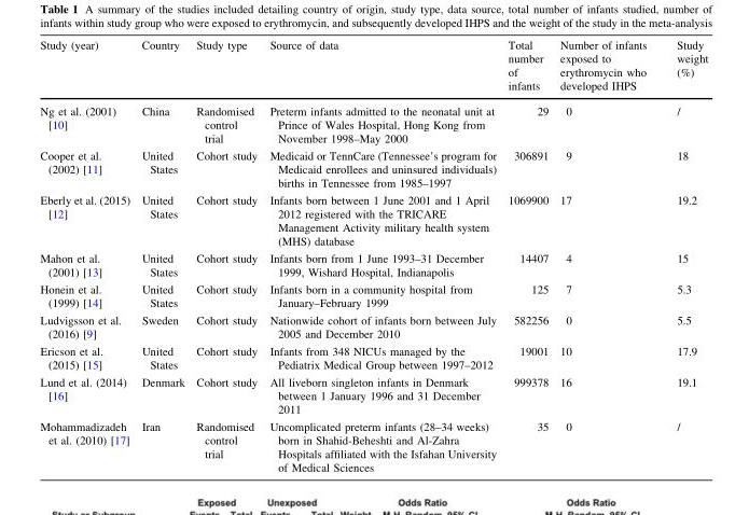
<table><thead><tr><td>Study (year)</td><td>Country</td><td>Study type</td><td>Source of data</td><td>Total number of infants</td><td>Number of infants exposed to erythromycin who developed IHPS</td><td>Study weight (%)</td></tr></thead><tbody><tr><td>Ng et al. (2001) [10]</td><td>China</td><td>Randomised control trial</td><td>Preterm infants admitted to the neonatal unit at Prince of Wales Hospital, Hong Kong from November 1998–May 2000</td><td>29</td><td>0</td><td>/</td></tr><tr><td>Cooper et al. (2002) [11]</td><td>United States</td><td>Cohort study</td><td>Medicaid or TennCare (Tennessee’s program for Medicaid enrollees and uninsured individuals) births in Tennessee from 1985–1997</td><td>306891</td><td>9</td><td>18</td></tr><tr><td>Eberly et al. (2015) [12]</td><td>United States</td><td>Cohort study</td><td>Infants born between 1 June 2001 and 1 April 2012 registered with the TRICARE Management Activity military health system (MHS) database</td><td>1069900</td><td>17</td><td>19.2</td></tr><tr><td>Mahon et al. (2001) [13]</td><td>United States</td><td>Cohort study</td><td>Infants born from 1 June 1993–31 December 1999, Wishard Hospital, Indianapolis</td><td>14407</td><td>4</td><td>15</td></tr><tr><td>Honein et al. (1999) [14]</td><td>United States</td><td>Cohort study</td><td>Infants born in a community hospital from January–February 1999</td><td>125</td><td>7</td><td>5.3</td></tr><tr><td>Ludvigsson et al. (2016) [9]</td><td>Sweden</td><td>Cohort study</td><td>Nationwide cohort of infants born between July 2005 and December 2010</td><td>582256</td><td>0</td><td>5.5</td></tr><tr><td>Ericson et al. (2015) [15]</td><td>United States</td><td>Cohort study</td><td>Infants from 348 NICUs managed by the Pediatrix Medical Group between 1997–2012</td><td>19001</td><td>10</td><td>17.9</td></tr><tr><td>Lund et al. (2014) [16]</td><td>Denmark</td><td>Cohort study</td><td>All liveborn singleton infants in Denmark between 1 January 1996 and 31 December 2011</td><td>999378</td><td>16</td><td>19.1</td></tr><tr><td>Mohammadizadeh et al. (2010) [17]</td><td>Iran</td><td>Randomised control trial</td><td>Uncomplicated preterm infants (28–34 weeks) born in Shahid-Beheshti and Al-Zahra Hospitals affiliated with the Isfahan University of Medical Sciences</td><td>35</td><td>0</td><td>/</td></tr></tbody></table>